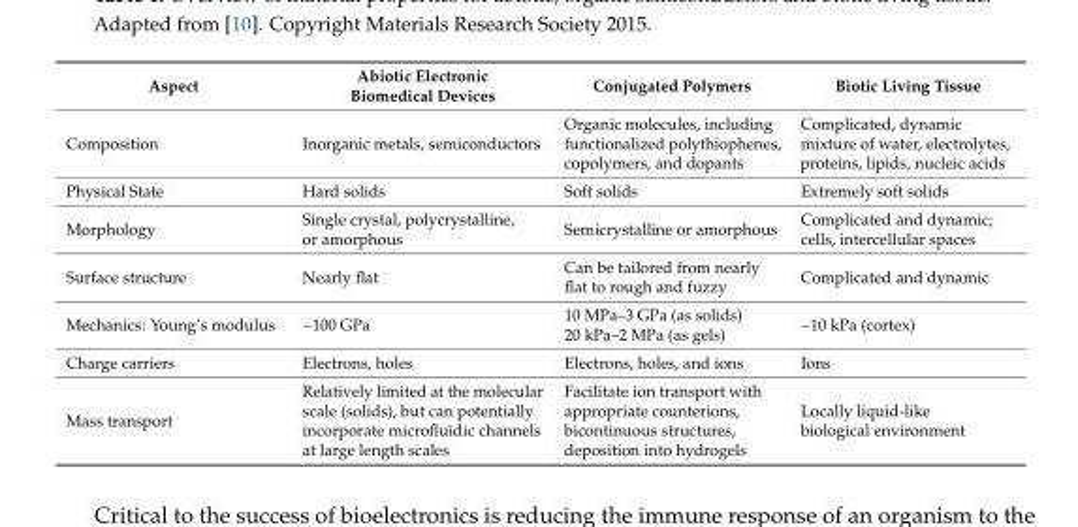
<table><thead><tr><td>Aspect</td><td>Abiotic Electronic Biomedical Devices</td><td>Conjugated Polymers</td><td>Biotic Living Tissue</td></tr></thead><tbody><tr><td>Composition</td><td>Inorganic metals, semiconductors</td><td>Organic molecules, including functionalized polythiophenes, copolymers, and dopants</td><td>Complicated, dynamic mixture of water, electrolytes, proteins, lipids, nucleic acids</td></tr><tr><td>Physical State</td><td>Hard solids</td><td>Soft solids</td><td>Extremely soft solids</td></tr><tr><td>Morphology</td><td>Single crystal, polycrystalline, or amorphous</td><td>Semicrystalline or amorphous</td><td>Complicated and dynamic; cells, intercellular spaces</td></tr><tr><td>Surface structure</td><td>Nearly flat</td><td>Can be tailored from nearly flat to rough and fuzzy</td><td>Complicated and dynamic</td></tr><tr><td>Mechanics: Young’s modulus</td><td>~100 GPa</td><td>10 MPa–3 GPa (as solids) 20 kPa–2 MPa (as gels)</td><td>~10 kPa (cortex)</td></tr><tr><td>Charge carriers</td><td>Electrons, holes</td><td>Electrons, holes, and ions</td><td>Ions</td></tr><tr><td>Mass transport</td><td>Relatively limited at the molecular scale (solids), but can potentially incorporate microfluidic channels at large length scales</td><td>Facilitate ion transport with appropriate counterions, bicontinuous structures, deposition into hydrogels</td><td>Locally liquid-like biological environment</td></tr></tbody></table>